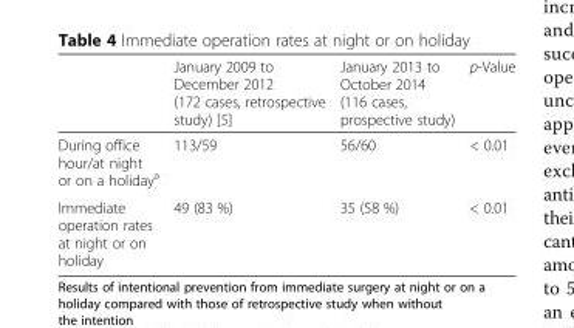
<table><thead><tr><td></td><td>January 2009 to December 2012 (172 cases, retrospective study) [5]</td><td>January 2013 to October 2014 (116 cases, prospective study)</td><td>p-Value</td></tr></thead><tbody><tr><td>During office hour/at night or on a holiday<sup>a</sup></td><td>113/59</td><td>56/60</td><td>&lt; 0.01</td></tr><tr><td>Immediate operation rates at night or on holiday</td><td>49 (83 %)</td><td>35 (58 %)</td><td>&lt; 0.01</td></tr></tbody></table>